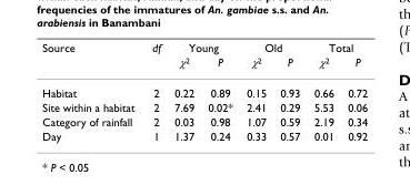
<table><thead><tr><td rowspan="2">Source</td><td rowspan="2">df</td><td colspan="2">Young</td><td colspan="2">Old</td><td colspan="2">Total</td></tr><tr><td>χ<sup>2</sup></td><td>P</td><td>χ<sup>2</sup></td><td>P</td><td>χ<sup>2</sup></td><td>P</td></tr></thead><tbody><tr><td>Habitat</td><td>2</td><td>0.22</td><td>0.89</td><td>0.15</td><td>0.93</td><td>0.66</td><td>0.72</td></tr><tr><td>Site within a habitat</td><td>2</td><td>7.69</td><td>0.02*</td><td>2.41</td><td>0.29</td><td>5.53</td><td>0.06</td></tr><tr><td>Category of rainfall</td><td>2</td><td>0.03</td><td>0.98</td><td>1.07</td><td>0.59</td><td>2.19</td><td>0.34</td></tr><tr><td>Day</td><td>1</td><td>1.37</td><td>0.24</td><td>0.33</td><td>0.57</td><td>0.01</td><td>0.92</td></tr></tbody></table>